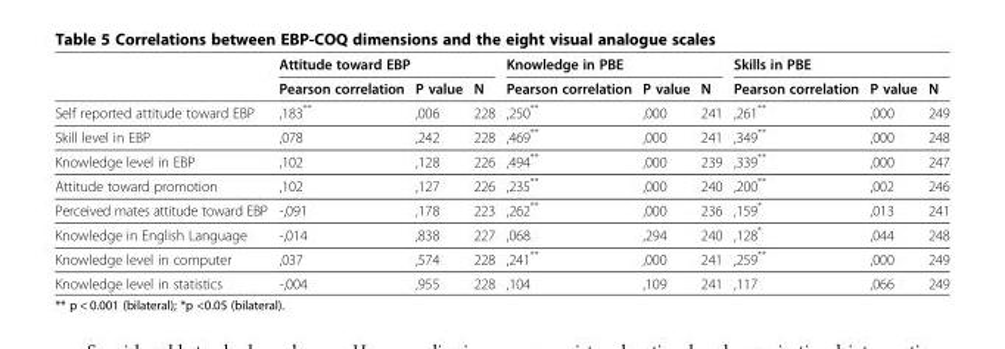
<table><thead><tr><td rowspan="2"></td><td colspan="3">Attitude toward EBP</td><td colspan="3">Knowledge in PBE</td><td colspan="3">Skills in PBE</td></tr><tr><td>Pearson correlation</td><td>P value</td><td>N</td><td>Pearson correlation</td><td>P value</td><td>N</td><td>Pearson correlation</td><td>P value</td><td>N</td></tr></thead><tbody><tr><td>Self reported attitude toward EBP</td><td>,183**</td><td>,006</td><td>228</td><td>,250**</td><td>,000</td><td>241</td><td>,261**</td><td>,000</td><td>249</td></tr><tr><td>Skill level in EBP</td><td>,078</td><td>,242</td><td>228</td><td>,469**</td><td>,000</td><td>241</td><td>,349**</td><td>,000</td><td>248</td></tr><tr><td>Knowledge level in EBP</td><td>,102</td><td>,128</td><td>226</td><td>,494**</td><td>,000</td><td>239</td><td>,339**</td><td>,000</td><td>247</td></tr><tr><td>Attitude toward promotion</td><td>,102</td><td>,127</td><td>226</td><td>,235**</td><td>,000</td><td>240</td><td>,200**</td><td>,002</td><td>246</td></tr><tr><td>Perceived mates attitude toward EBP</td><td>-,091</td><td>,178</td><td>223</td><td>,262**</td><td>,000</td><td>236</td><td>,159*</td><td>,013</td><td>241</td></tr><tr><td>Knowledge in English Language</td><td>-,014</td><td>,838</td><td>227</td><td>,068</td><td>,294</td><td>240</td><td>,128*</td><td>,044</td><td>248</td></tr><tr><td>Knowledge level in computer</td><td>,037</td><td>,574</td><td>228</td><td>,241**</td><td>,000</td><td>241</td><td>,259**</td><td>,000</td><td>249</td></tr><tr><td>Knowledge level in statistics</td><td>-,004</td><td>,955</td><td>228</td><td>,104</td><td>,109</td><td>241</td><td>,117</td><td>,066</td><td>249</td></tr></tbody></table>